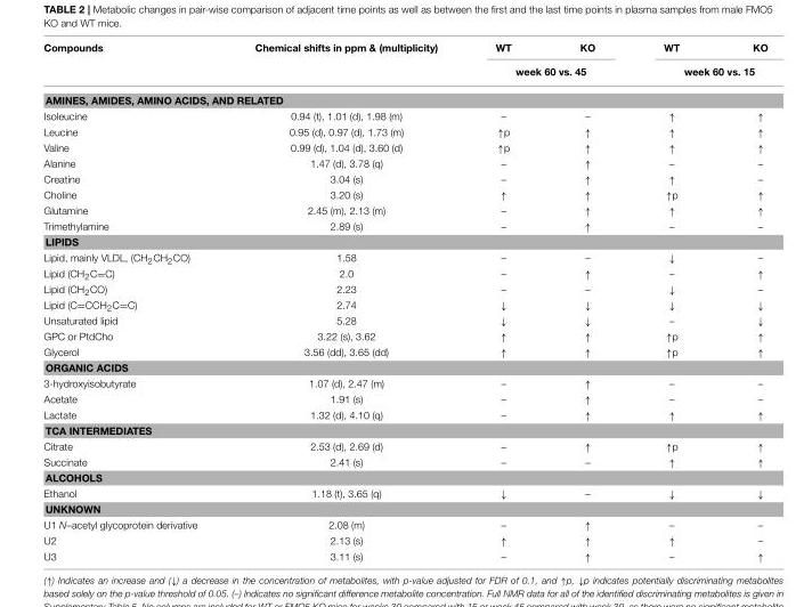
<table><thead><tr><td rowspan="2">Compounds</td><td rowspan="2">Chemical shifts in ppm &amp; (multiplicity)</td><td>WT</td><td>KO</td><td>WT</td><td>KO</td></tr><tr><td colspan="2">week 60 vs. 45</td><td colspan="2">week 60 vs. 15</td></tr></thead><tbody><tr><td colspan="6">AMINES, AMIDES, AMINO ACIDS, AND RELATED</td></tr><tr><td>Isoleucine</td><td>0.94 (t), 1.01 (d), 1.98 (m)</td><td>–</td><td>–</td><td>↑</td><td>↑</td></tr><tr><td>Leucine</td><td>0.95 (d), 0.97 (d), 1.73 (m)</td><td>↑p</td><td>↑</td><td>↑</td><td>↑</td></tr><tr><td>Valine</td><td>0.99 (d), 1.04 (d), 3.60 (d)</td><td>↑p</td><td>↑</td><td>↑</td><td>↑</td></tr><tr><td>Alanine</td><td>1.47 (d), 3.78 (q)</td><td>–</td><td>↑</td><td>–</td><td>–</td></tr><tr><td>Creatine</td><td>3.04 (s)</td><td>–</td><td>↑</td><td>↑</td><td>–</td></tr><tr><td>Choline</td><td>3.20 (s)</td><td>↑</td><td>↑</td><td>↑p</td><td>↑</td></tr><tr><td>Glutamine</td><td>2.45 (m), 2.13 (m)</td><td>–</td><td>↑</td><td>↑</td><td>↑</td></tr><tr><td>Trimethylamine</td><td>2.89 (s)</td><td>–</td><td>↑</td><td>–</td><td>–</td></tr><tr><td colspan="6">LIPIDS</td></tr><tr><td>Lipid, mainly VLDL, (CH<sub>2</sub>CH<sub>2</sub>CO)</td><td>1.58</td><td>–</td><td>–</td><td>↓</td><td>–</td></tr><tr><td>Lipid (CH<sub>2</sub>C=C)</td><td>2.0</td><td>–</td><td>↑</td><td>–</td><td>↑</td></tr><tr><td>Lipid (CH<sub>2</sub>CO)</td><td>2.23</td><td>–</td><td>–</td><td>↓</td><td>–</td></tr><tr><td>Lipid (C=CCH<sub>2</sub>C=C)</td><td>2.74</td><td>↓</td><td>↓</td><td>↓</td><td>↓</td></tr><tr><td>Unsaturated lipid</td><td>5.28</td><td>↓</td><td>↓</td><td>–</td><td>↓</td></tr><tr><td>GPC or PtdCho</td><td>3.22 (s), 3.62</td><td>↑</td><td>↑</td><td>↑p</td><td>↑</td></tr><tr><td>Glycerol</td><td>3.56 (dd), 3.65 (dd)</td><td>↑</td><td>↑</td><td>↑p</td><td>↑</td></tr><tr><td colspan="6">ORGANIC ACIDS</td></tr><tr><td>3-hydroxyisobutyrate</td><td>1.07 (d), 2.47 (m)</td><td>–</td><td>↑</td><td>–</td><td>–</td></tr><tr><td>Acetate</td><td>1.91 (s)</td><td>–</td><td>↑</td><td>–</td><td>–</td></tr><tr><td>Lactate</td><td>1.32 (d), 4.10 (q)</td><td>–</td><td>↑</td><td>↑</td><td>↑</td></tr><tr><td colspan="6">TCA INTERMEDIATES</td></tr><tr><td>Citrate</td><td>2.53 (d), 2.69 (d)</td><td>–</td><td>↑</td><td>↑p</td><td>↑</td></tr><tr><td>Succinate</td><td>2.41 (s)</td><td>–</td><td>–</td><td>↑</td><td>↑</td></tr><tr><td colspan="6">ALCOHOLS</td></tr><tr><td>Ethanol</td><td>1.18 (t), 3.65 (q)</td><td>↓</td><td>–</td><td>↓</td><td>↓</td></tr><tr><td colspan="6">UNKNOWN</td></tr><tr><td>U1 N–acetyl glycoprotein derivative</td><td>2.08 (m)</td><td>–</td><td>↑</td><td>–</td><td>–</td></tr><tr><td>U2</td><td>2.13 (s)</td><td>↑</td><td>↑</td><td>↑</td><td>–</td></tr><tr><td>U3</td><td>3.11 (s)</td><td>–</td><td>↑</td><td>–</td><td>↑</td></tr></tbody></table>